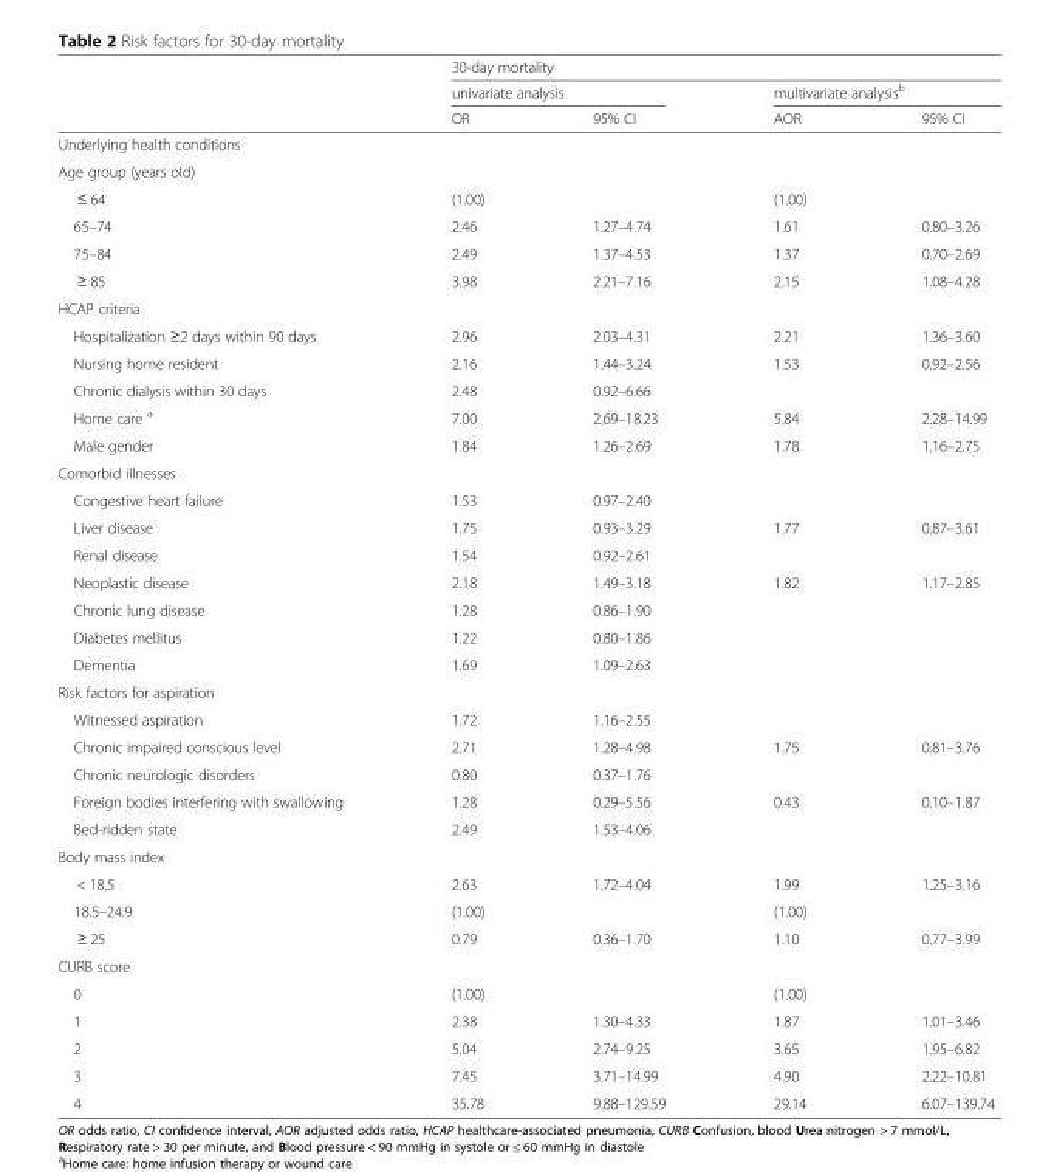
<table><thead><tr><td rowspan="3"></td><td colspan="4">30-day mortality</td></tr><tr><td colspan="2">univariate analysis</td><td colspan="2">multivariate analysis<sup>b</sup></td></tr><tr><td>OR</td><td>95% CI</td><td>AOR</td><td>95% CI</td></tr></thead><tbody><tr><td colspan="5">Underlying health conditions</td></tr><tr><td colspan="5">Age group (years old)</td></tr><tr><td>≤ 64</td><td>(1.00)</td><td></td><td>(1.00)</td><td></td></tr><tr><td>65–74</td><td>2.46</td><td>1.27–4.74</td><td>1.61</td><td>0.80–3.26</td></tr><tr><td>75–84</td><td>2.49</td><td>1.37–4.53</td><td>1.37</td><td>0.70–2.69</td></tr><tr><td>≥ 85</td><td>3.98</td><td>2.21–7.16</td><td>2.15</td><td>1.08–4.28</td></tr><tr><td colspan="5">HCAP criteria</td></tr><tr><td>Hospitalization ≥2 days within 90 days</td><td>2.96</td><td>2.03–4.31</td><td>2.21</td><td>1.36–3.60</td></tr><tr><td>Nursing home resident</td><td>2.16</td><td>1.44–3.24</td><td>1.53</td><td>0.92–2.56</td></tr><tr><td>Chronic dialysis within 30 days</td><td>2.48</td><td>0.92–6.66</td><td></td><td></td></tr><tr><td>Home care <sup>a</sup></td><td>7.00</td><td>2.69–18.23</td><td>5.84</td><td>2.28–14.99</td></tr><tr><td>Male gender</td><td>1.84</td><td>1.26–2.69</td><td>1.78</td><td>1.16–2.75</td></tr><tr><td colspan="5">Comorbid illnesses</td></tr><tr><td>Congestive heart failure</td><td>1.53</td><td>0.97–2.40</td><td></td><td></td></tr><tr><td>Liver disease</td><td>1.75</td><td>0.93–3.29</td><td>1.77</td><td>0.87–3.61</td></tr><tr><td>Renal disease</td><td>1.54</td><td>0.92–2.61</td><td></td><td></td></tr><tr><td>Neoplastic disease</td><td>2.18</td><td>1.49–3.18</td><td>1.82</td><td>1.17–2.85</td></tr><tr><td>Chronic lung disease</td><td>1.28</td><td>0.86–1.90</td><td></td><td></td></tr><tr><td>Diabetes mellitus</td><td>1.22</td><td>0.80–1.86</td><td></td><td></td></tr><tr><td>Dementia</td><td>1.69</td><td>1.09–2.63</td><td></td><td></td></tr><tr><td colspan="5">Risk factors for aspiration</td></tr><tr><td>Witnessed aspiration</td><td>1.72</td><td>1.16–2.55</td><td></td><td></td></tr><tr><td>Chronic impaired conscious level</td><td>2.71</td><td>1.28–4.98</td><td>1.75</td><td>0.81–3.76</td></tr><tr><td>Chronic neurologic disorders</td><td>0.80</td><td>0.37–1.76</td><td></td><td></td></tr><tr><td>Foreign bodies interfering with swallowing</td><td>1.28</td><td>0.29–5.56</td><td>0.43</td><td>0.10–1.87</td></tr><tr><td>Bed-ridden state</td><td>2.49</td><td>1.53–4.06</td><td></td><td></td></tr><tr><td colspan="5">Body mass index</td></tr><tr><td>&lt; 18.5</td><td>2.63</td><td>1.72–4.04</td><td>1.99</td><td>1.25–3.16</td></tr><tr><td>18.5–24.9</td><td>(1.00)</td><td></td><td>(1.00)</td><td></td></tr><tr><td>≥ 25</td><td>0.79</td><td>0.36–1.70</td><td>1.10</td><td>0.77–3.99</td></tr><tr><td colspan="5">CURB score</td></tr><tr><td>0</td><td>(1.00)</td><td></td><td>(1.00)</td><td></td></tr><tr><td>1</td><td>2.38</td><td>1.30–4.33</td><td>1.87</td><td>1.01–3.46</td></tr><tr><td>2</td><td>5.04</td><td>2.74–9.25</td><td>3.65</td><td>1.95–6.82</td></tr><tr><td>3</td><td>7.45</td><td>3.71–14.99</td><td>4.90</td><td>2.22–10.81</td></tr><tr><td>4</td><td>35.78</td><td>9.88–129.59</td><td>29.14</td><td>6.07–139.74</td></tr></tbody></table>